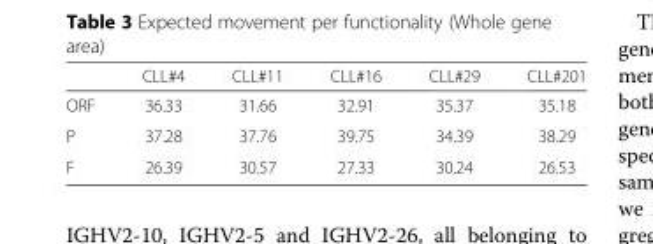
<table><thead><tr><td></td><td>CLL#4</td><td>CLL#11</td><td>CLL#16</td><td>CLL#29</td><td>CLL#201</td></tr></thead><tbody><tr><td>ORF</td><td>36.33</td><td>31.66</td><td>32.91</td><td>35.37</td><td>35.18</td></tr><tr><td>P</td><td>37.28</td><td>37.76</td><td>39.75</td><td>34.39</td><td>38.29</td></tr><tr><td>F</td><td>26.39</td><td>30.57</td><td>27.33</td><td>30.24</td><td>26.53</td></tr></tbody></table>